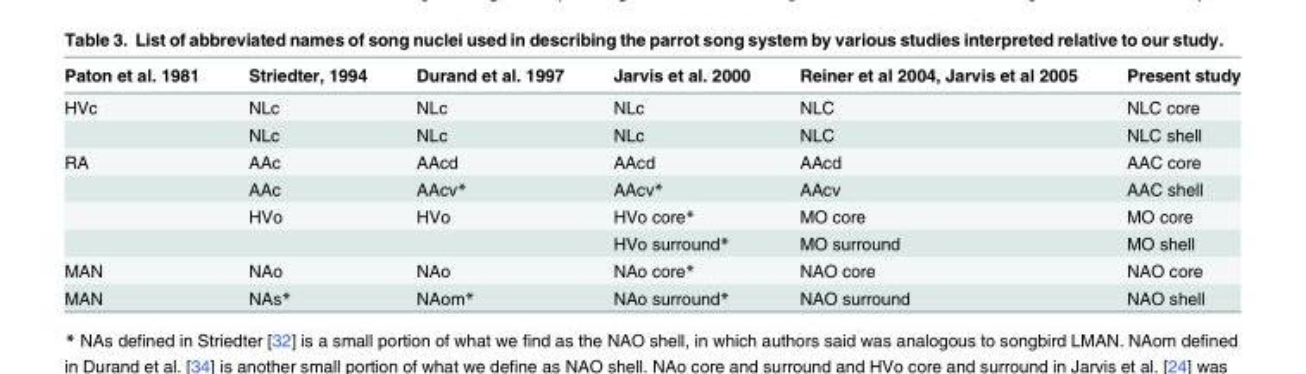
<table><thead><tr><td>Paton et al. 1981</td><td>Striedter, 1994</td><td>Durand et al. 1997</td><td>Jarvis et al. 2000</td><td>Reiner et al 2004, Jarvis et al 2005</td><td>Present study</td></tr></thead><tbody><tr><td rowspan="2">HVc</td><td>NLc</td><td>NLc</td><td>NLc</td><td>NLC</td><td>NLC core</td></tr><tr><td>NLc</td><td>NLc</td><td>NLc</td><td>NLC</td><td>NLC shell</td></tr><tr><td rowspan="4">RA</td><td>AAc</td><td>AAcd</td><td>AAcd</td><td>AAcd</td><td>AAC core</td></tr><tr><td>AAc</td><td>AAcv*</td><td>AAcv*</td><td>AAcv</td><td>AAC shell</td></tr><tr><td>HVo</td><td>HVo</td><td>HVo core*</td><td>MO core</td><td>MO core</td></tr><tr><td></td><td></td><td>HVo surround*</td><td>MO surround</td><td>MO shell</td></tr><tr><td>MAN</td><td>NAo</td><td>NAo</td><td>NAo core*</td><td>NAO core</td><td>NAO core</td></tr><tr><td>MAN</td><td>NAs*</td><td>NAom*</td><td>NAo surround*</td><td>NAO surround</td><td>NAO shell</td></tr></tbody></table>